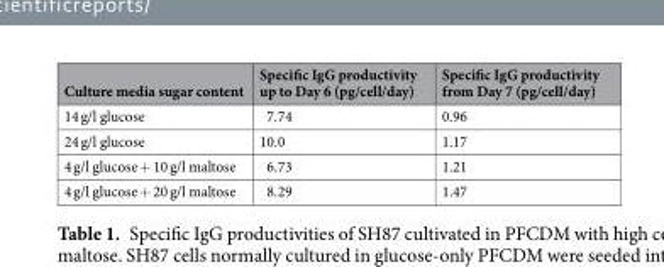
<table><thead><tr><td>Culture media sugar content</td><td>Specific IgG productivity up to Day 6 (pg/cell/day)</td><td>Specific IgG productivity from Day 7 (pg/cell/day)</td></tr></thead><tbody><tr><td>14 g/l glucose</td><td>7.74</td><td>0.96</td></tr><tr><td>24 g/l glucose</td><td>10.0</td><td>1.17</td></tr><tr><td>4 g/l glucose + 10 g/l maltose</td><td>6.73</td><td>1.21</td></tr><tr><td>4 g/l glucose + 20 g/l maltose</td><td>8.29</td><td>1.47</td></tr></tbody></table>